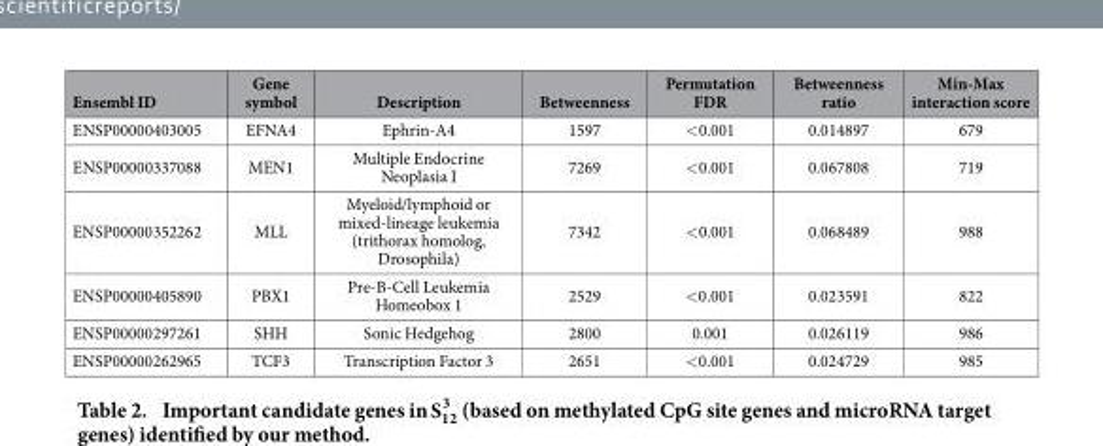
<table><thead><tr><td>Ensembl ID</td><td>Gene symbol</td><td>Description</td><td>Betweenness</td><td>Permutation FDR</td><td>Betweenness ratio</td><td>Min-Max interaction score</td></tr></thead><tbody><tr><td>ENSP00000403005</td><td>EFNA4</td><td>Ephrin-A4</td><td>1597</td><td>&lt; 0.001</td><td>0.014897</td><td>679</td></tr><tr><td>ENSP00000337088</td><td>MEN1</td><td>Multiple Endocrine Neoplasia I</td><td>7269</td><td>&lt; 0.001</td><td>0.067808</td><td>719</td></tr><tr><td>ENSP00000352262</td><td>MLL</td><td>Myeloid/lymphoid or mixed-lineage leukemia (trithorax homolog, Drosophila)</td><td>7342</td><td>&lt; 0.001</td><td>0.068489</td><td>988</td></tr><tr><td>ENSP00000405890</td><td>PBX1</td><td>Pre-B-Cell Leukemia Homeobox 1</td><td>2529</td><td>&lt; 0.001</td><td>0.023591</td><td>822</td></tr><tr><td>ENSP00000297261</td><td>SHH</td><td>Sonic Hedgehog</td><td>2800</td><td>0.001</td><td>0.026119</td><td>986</td></tr><tr><td>ENSP00000262965</td><td>TCF3</td><td>Transcription Factor 3</td><td>2651</td><td>&lt; 0.001</td><td>0.024729</td><td>985</td></tr></tbody></table>